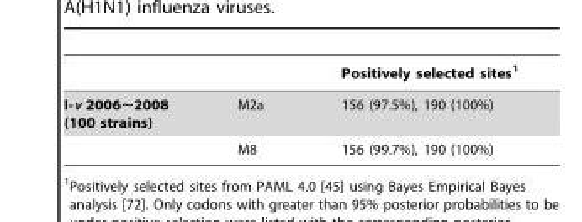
<table><thead><tr><td></td><td></td><td>Positively selected sites<sup>1</sup></td></tr></thead><tbody><tr><td rowspan="2">I-v 2006∼2008 (100 strains)</td><td>M2a</td><td>156 (97.5%), 190 (100%)</td></tr><tr><td>M8</td><td>156 (99.7%), 190 (100%)</td></tr></tbody></table>